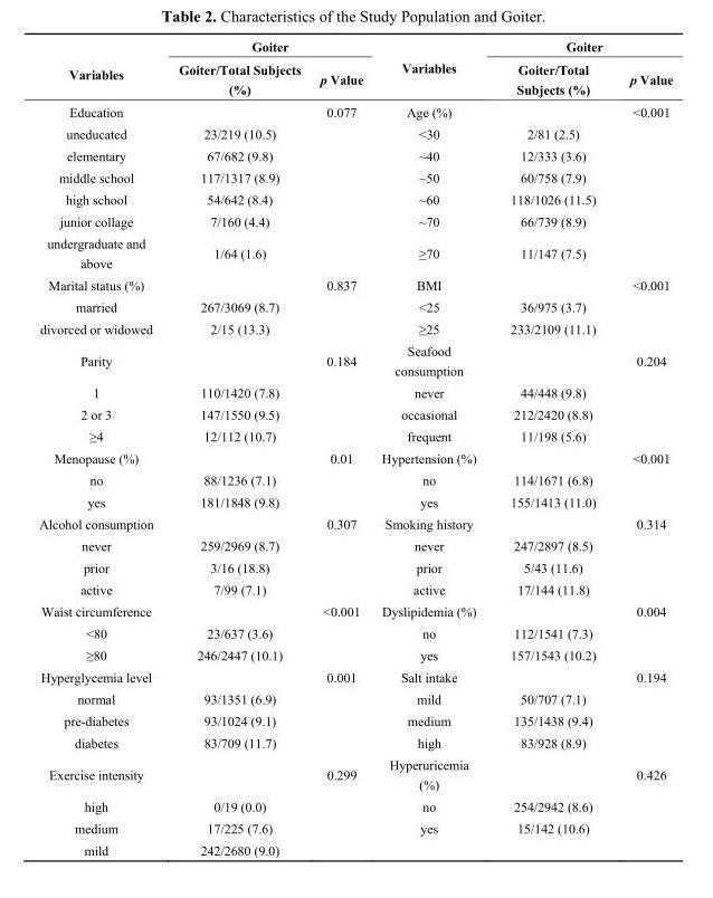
<table><thead><tr><td rowspan="2">Variables</td><td colspan="2">Goiter</td><td rowspan="2">Variables</td><td colspan="2">Goiter</td></tr><tr><td>Goiter/Total Subjects (%)</td><td>p Value</td><td>Goiter/Total Subjects (%)</td><td>p Value</td></tr></thead><tbody><tr><td>Education</td><td></td><td>0.077</td><td>Age (%)</td><td></td><td>&lt;0.001</td></tr><tr><td>uneducated</td><td>23/219 (10.5)</td><td></td><td>&lt;30</td><td>2/81 (2.5)</td><td></td></tr><tr><td>elementary</td><td>67/682 (9.8)</td><td></td><td>~40</td><td>12/333 (3.6)</td><td></td></tr><tr><td>middle school</td><td>117/1317 (8.9)</td><td></td><td>~50</td><td>60/758 (7.9)</td><td></td></tr><tr><td>high school</td><td>54/642 (8.4)</td><td></td><td>~60</td><td>118/1026 (11.5)</td><td></td></tr><tr><td>junior collage</td><td>7/160 (4.4)</td><td></td><td>~70</td><td>66/739 (8.9)</td><td></td></tr><tr><td>undergraduate and above</td><td>1/64 (1.6)</td><td></td><td>≥70</td><td>11/147 (7.5)</td><td></td></tr><tr><td>Marital status (%)</td><td></td><td>0.837</td><td>BMI</td><td></td><td>&lt;0.001</td></tr><tr><td>married</td><td>267/3069 (8.7)</td><td></td><td>&lt;25</td><td>36/975 (3.7)</td><td></td></tr><tr><td>divorced or widowed</td><td>2/15 (13.3)</td><td></td><td>≥25</td><td>233/2109 (11.1)</td><td></td></tr><tr><td>Parity</td><td></td><td>0.184</td><td>Seafood consumption</td><td></td><td>0.204</td></tr><tr><td>1</td><td>110/1420 (7.8)</td><td></td><td>never</td><td>44/448 (9.8)</td><td></td></tr><tr><td>2 or 3</td><td>147/1550 (9.5)</td><td></td><td>occasional</td><td>212/2420 (8.8)</td><td></td></tr><tr><td>≥4</td><td>12/112 (10.7)</td><td></td><td>frequent</td><td>11/198 (5.6)</td><td></td></tr><tr><td>Menopause (%)</td><td></td><td>0.01</td><td>Hypertension (%)</td><td></td><td>&lt;0.001</td></tr><tr><td>no</td><td>88/1236 (7.1)</td><td></td><td>no</td><td>114/1671 (6.8)</td><td></td></tr><tr><td>yes</td><td>181/1848 (9.8)</td><td></td><td>yes</td><td>155/1413 (11.0)</td><td></td></tr><tr><td>Alcohol consumption</td><td></td><td>0.307</td><td>Smoking history</td><td></td><td>0.314</td></tr><tr><td>never</td><td>259/2969 (8.7)</td><td></td><td>never</td><td>247/2897 (8.5)</td><td></td></tr><tr><td>prior</td><td>3/16 (18.8)</td><td></td><td>prior</td><td>5/43 (11.6)</td><td></td></tr><tr><td>active</td><td>7/99 (7.1)</td><td></td><td>active</td><td>17/144 (11.8)</td><td></td></tr><tr><td>Waist circumference</td><td></td><td>&lt;0.001</td><td>Dyslipidemia (%)</td><td></td><td>0.004</td></tr><tr><td>&lt;80</td><td>23/637 (3.6)</td><td></td><td>no</td><td>112/1541 (7.3)</td><td></td></tr><tr><td>≥80</td><td>246/2447 (10.1)</td><td></td><td>yes</td><td>157/1543 (10.2)</td><td></td></tr><tr><td>Hyperglycemia level</td><td></td><td>0.001</td><td>Salt intake</td><td></td><td>0.194</td></tr><tr><td>normal</td><td>93/1351 (6.9)</td><td></td><td>mild</td><td>50/707 (7.1)</td><td></td></tr><tr><td>pre-diabetes</td><td>93/1024 (9.1)</td><td></td><td>medium</td><td>135/1438 (9.4)</td><td></td></tr><tr><td>diabetes</td><td>83/709 (11.7)</td><td></td><td>high</td><td>83/928 (8.9)</td><td></td></tr><tr><td>Exercise intensity</td><td></td><td>0.299</td><td>Hyperuricemia (%)</td><td></td><td>0.426</td></tr><tr><td>high</td><td>0/19 (0.0)</td><td></td><td>no</td><td>254/2942 (8.6)</td><td></td></tr><tr><td>medium</td><td>17/225 (7.6)</td><td></td><td>yes</td><td>15/142 (10.6)</td><td></td></tr><tr><td>mild</td><td>242/2680 (9.0)</td><td></td><td></td><td></td><td></td></tr></tbody></table>